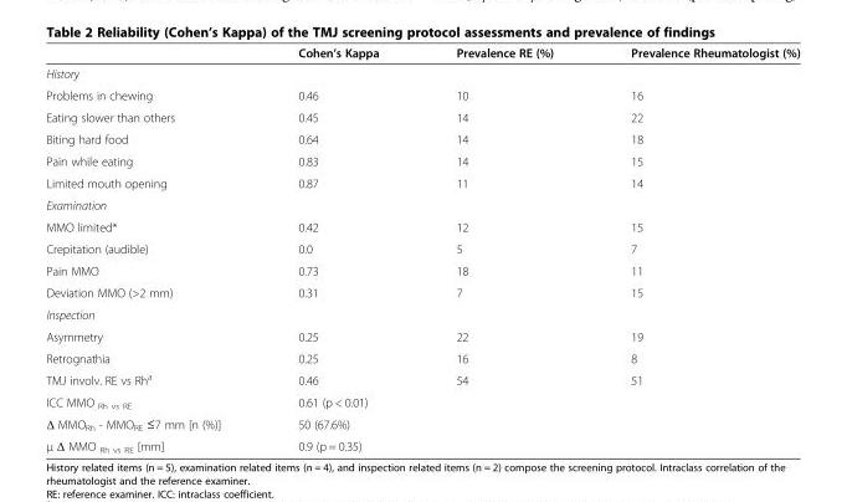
<table><thead><tr><td></td><td>Cohen’s Kappa</td><td>Prevalence RE (%)</td><td>Prevalence Rheumatologist (%)</td></tr></thead><tbody><tr><td colspan="4">History</td></tr><tr><td>Problems in chewing</td><td>0.46</td><td>10</td><td>16</td></tr><tr><td>Eating slower than others</td><td>0.45</td><td>14</td><td>22</td></tr><tr><td>Biting hard food</td><td>0.64</td><td>14</td><td>18</td></tr><tr><td>Pain while eating</td><td>0.83</td><td>14</td><td>15</td></tr><tr><td>Limited mouth opening</td><td>0.87</td><td>11</td><td>14</td></tr><tr><td colspan="4">Examination</td></tr><tr><td>MMO limited*</td><td>0.42</td><td>12</td><td>15</td></tr><tr><td>Crepitation (audible)</td><td>0.0</td><td>5</td><td>7</td></tr><tr><td>Pain MMO</td><td>0.73</td><td>18</td><td>11</td></tr><tr><td>Deviation MMO (&gt;2 mm)</td><td>0.31</td><td>7</td><td>15</td></tr><tr><td colspan="4">Inspection</td></tr><tr><td>Asymmetry</td><td>0.25</td><td>22</td><td>19</td></tr><tr><td>Retrognathia</td><td>0.25</td><td>16</td><td>8</td></tr><tr><td>TMJ involv. RE vs Rh<sup>a</sup></td><td>0.46</td><td>54</td><td>51</td></tr><tr><td>ICC MMO <sub>Rh vs RE</sub></td><td>0.61 (p &lt; 0.01)</td><td></td><td></td></tr><tr><td>Δ MMO<sub>Rh</sub> - MMO<sub>RE</sub> ≤7 mm [n (%)]</td><td>50 (67.6%)</td><td></td><td></td></tr><tr><td>μ Δ MMO <sub>Rh vs RE</sub> [mm]</td><td>0.9 (p = 0.35)</td><td></td><td></td></tr></tbody></table>